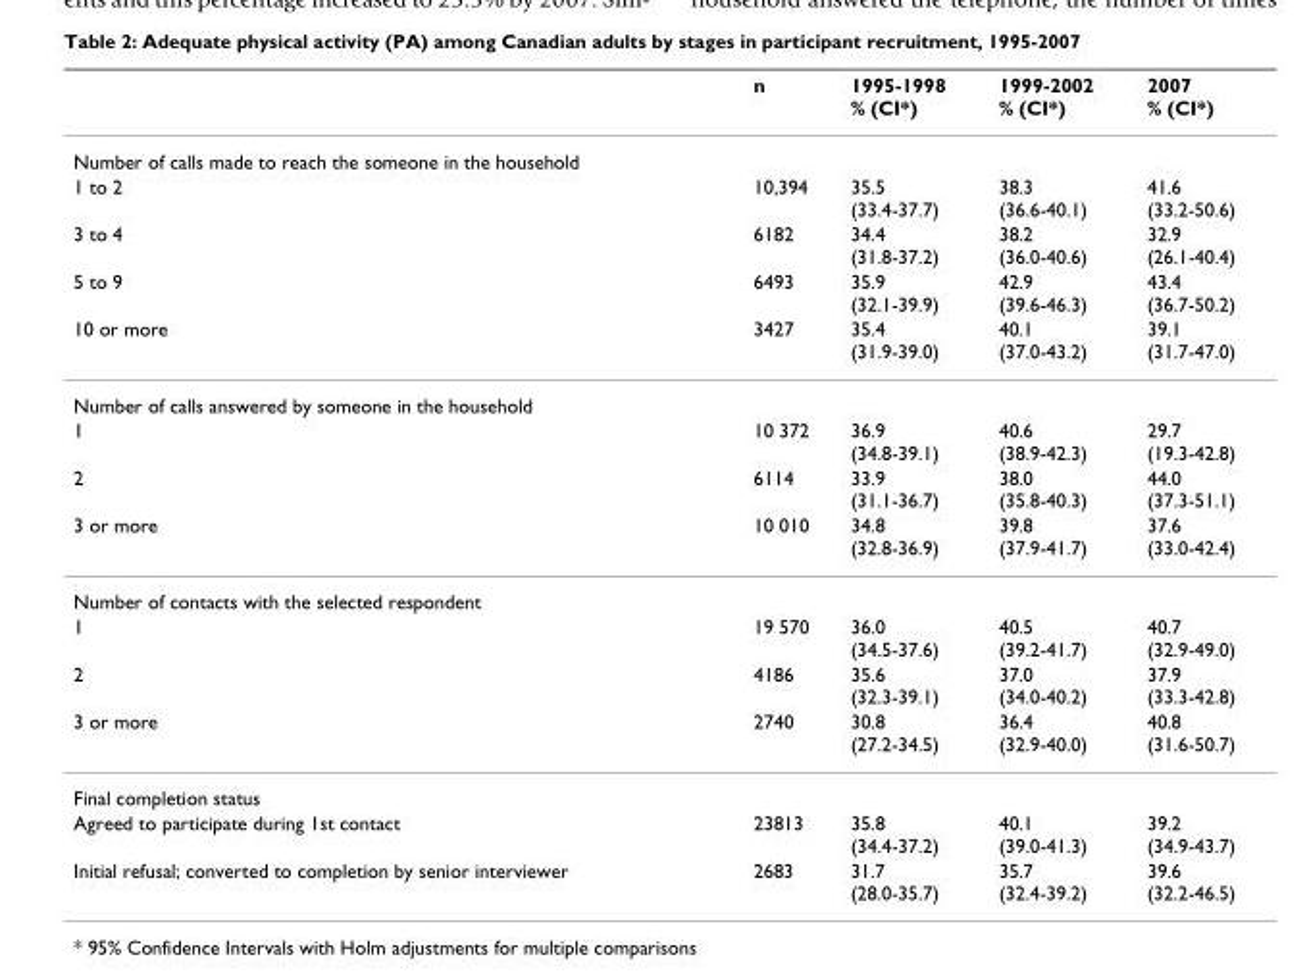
<table><thead><tr><td></td><td>n</td><td>1995-1998 % (CI*)</td><td>1999-2002 % (CI*)</td><td>2007 % (CI*)</td></tr></thead><tbody><tr><td colspan="5">Number of calls made to reach the someone in the household</td></tr><tr><td>1 to 2</td><td>10,394</td><td>35.5 (33.4-37.7)</td><td>38.3 (36.6-40.1)</td><td>41.6 (33.2-50.6)</td></tr><tr><td>3 to 4</td><td>6182</td><td>34.4 (31.8-37.2)</td><td>38.2 (36.0-40.6)</td><td>32.9 (26.1-40.4)</td></tr><tr><td>5 to 9</td><td>6493</td><td>35.9 (32.1-39.9)</td><td>42.9 (39.6-46.3)</td><td>43.4 (36.7-50.2)</td></tr><tr><td>10 or more</td><td>3427</td><td>35.4 (31.9-39.0)</td><td>40.1 (37.0-43.2)</td><td>39.1 (31.7-47.0)</td></tr><tr><td colspan="5">Number of calls answered by someone in the household</td></tr><tr><td>1</td><td>10 372</td><td>36.9 (34.8-39.1)</td><td>40.6 (38.9-42.3)</td><td>29.7 (19.3-42.8)</td></tr><tr><td>2</td><td>6114</td><td>33.9 (31.1-36.7)</td><td>38.0 (35.8-40.3)</td><td>44.0 (37.3-51.1)</td></tr><tr><td>3 or more</td><td>10 010</td><td>34.8 (32.8-36.9)</td><td>39.8 (37.9-41.7)</td><td>37.6 (33.0-42.4)</td></tr><tr><td colspan="5">Number of contacts with the selected respondent</td></tr><tr><td>1</td><td>19 570</td><td>36.0 (34.5-37.6)</td><td>40.5 (39.2-41.7)</td><td>40.7 (32.9-49.0)</td></tr><tr><td>2</td><td>4186</td><td>35.6 (32.3-39.1)</td><td>37.0 (34.0-40.2)</td><td>37.9 (33.3-42.8)</td></tr><tr><td>3 or more</td><td>2740</td><td>30.8 (27.2-34.5)</td><td>36.4 (32.9-40.0)</td><td>40.8 (31.6-50.7)</td></tr><tr><td colspan="5">Final completion status</td></tr><tr><td>Agreed to participate during 1st contact</td><td>23813</td><td>35.8 (34.4-37.2)</td><td>40.1 (39.0-41.3)</td><td>39.2 (34.9-43.7)</td></tr><tr><td>Initial refusal; converted to completion by senior interviewer</td><td>2683</td><td>31.7 (28.0-35.7)</td><td>35.7 (32.4-39.2)</td><td>39.6 (32.2-46.5)</td></tr></tbody></table>